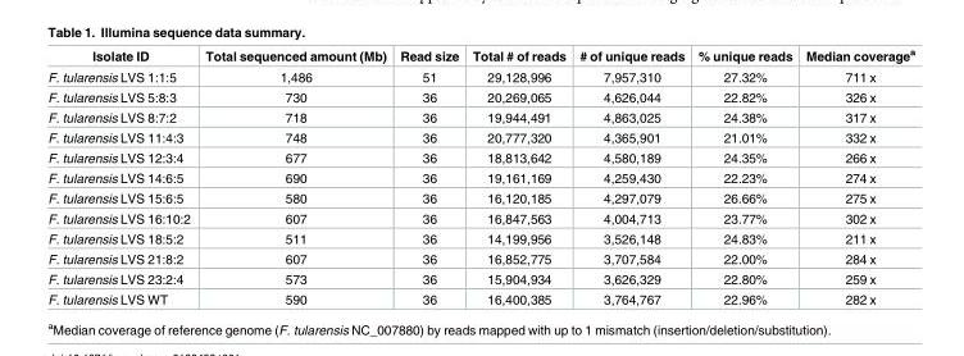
<table><thead><tr><td>Isolate ID</td><td>Total sequenced amount (Mb)</td><td>Read size</td><td>Total # of reads</td><td># of unique reads</td><td>% unique reads</td><td>Median coverage<sup>a</sup></td></tr></thead><tbody><tr><td>F. tularensis LVS 1:1:5</td><td>1,486</td><td>51</td><td>29,128,996</td><td>7,957,310</td><td>27.32%</td><td>711 x</td></tr><tr><td>F. tularensis LVS 5:8:3</td><td>730</td><td>36</td><td>20,269,065</td><td>4,626,044</td><td>22.82%</td><td>326 x</td></tr><tr><td>F. tularensis LVS 8:7:2</td><td>718</td><td>36</td><td>19,944,491</td><td>4,863,025</td><td>24.38%</td><td>317 x</td></tr><tr><td>F. tularensis LVS 11:4:3</td><td>748</td><td>36</td><td>20,777,320</td><td>4,365,901</td><td>21.01%</td><td>332 x</td></tr><tr><td>F. tularensis LVS 12:3:4</td><td>677</td><td>36</td><td>18,813,642</td><td>4,580,189</td><td>24.35%</td><td>266 x</td></tr><tr><td>F. tularensis LVS 14:6:5</td><td>690</td><td>36</td><td>19,161,169</td><td>4,259,430</td><td>22.23%</td><td>274 x</td></tr><tr><td>F. tularensis LVS 15:6:5</td><td>580</td><td>36</td><td>16,120,185</td><td>4,297,079</td><td>26.66%</td><td>275 x</td></tr><tr><td>F. tularensis LVS 16:10:2</td><td>607</td><td>36</td><td>16,847,563</td><td>4,004,713</td><td>23.77%</td><td>302 x</td></tr><tr><td>F. tularensis LVS 18:5:2</td><td>511</td><td>36</td><td>14,199,956</td><td>3,526,148</td><td>24.83%</td><td>211 x</td></tr><tr><td>F. tularensis LVS 21:8:2</td><td>607</td><td>36</td><td>16,852,775</td><td>3,707,584</td><td>22.00%</td><td>284 x</td></tr><tr><td>F. tularensis LVS 23:2:4</td><td>573</td><td>36</td><td>15,904,934</td><td>3,626,329</td><td>22.80%</td><td>259 x</td></tr><tr><td>F. tularensis LVS WT</td><td>590</td><td>36</td><td>16,400,385</td><td>3,764,767</td><td>22.96%</td><td>282 x</td></tr></tbody></table>